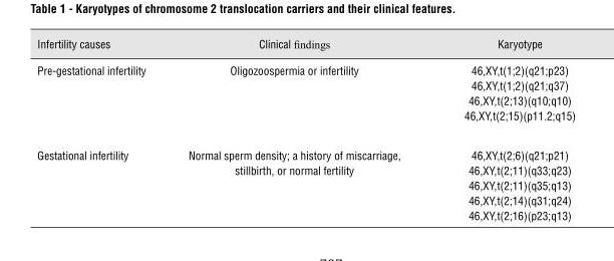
<table><thead><tr><td>Infertility causes</td><td>Clinical findings</td><td>Karyotype</td></tr></thead><tbody><tr><td>Pre-gestational infertility</td><td>Oligozoospermia or infertility</td><td>46,XY,t(1;2)(q21;p23) 46,XY,t(1;2)(q21;q37) 46,XY,t(2;13)(q10;q10) 46,XY,t(2;15)(p11.2;q15)</td></tr><tr><td>Gestational infertility</td><td>Normal sperm density; a history of miscarriage, stillbirth, or normal fertility</td><td>46,XY,t(2;6)(q21;p21) 46,XY,t(2;11)(q33;q23) 46,XY,t(2;11)(q35;q13) 46,XY,t(2;14)(q31;q24) 46,XY,t(2;16)(p23;q13)</td></tr></tbody></table>